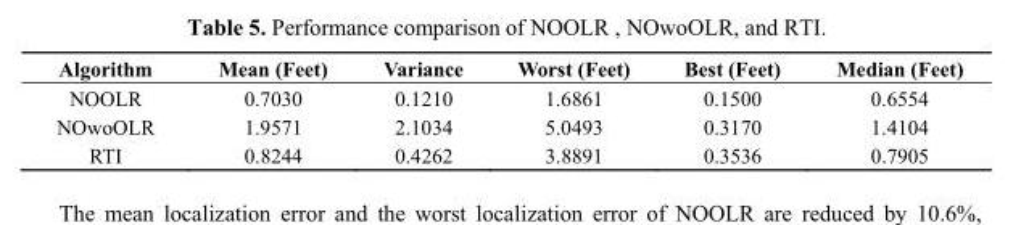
<table><thead><tr><td>Algorithm</td><td>Mean (Feet)</td><td>Variance</td><td>Worst (Feet)</td><td>Best (Feet)</td><td>Median (Feet)</td></tr></thead><tbody><tr><td>NOOLR</td><td>0.7030</td><td>0.1210</td><td>1.6861</td><td>0.1500</td><td>0.6554</td></tr><tr><td>NOwoOLR</td><td>1.9571</td><td>2.1034</td><td>5.0493</td><td>0.3170</td><td>1.4104</td></tr><tr><td>RTI</td><td>0.8244</td><td>0.4262</td><td>3.8891</td><td>0.3536</td><td>0.7905</td></tr></tbody></table>